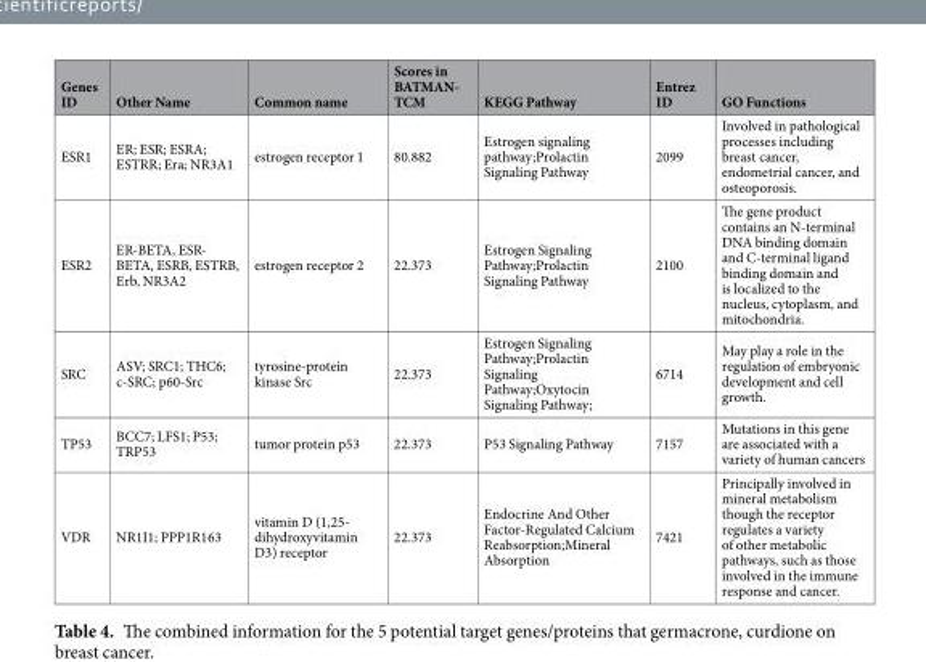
<table><thead><tr><td>Genes ID</td><td>Other Name</td><td>Common name</td><td>Scores in BATMAN- TCM</td><td>KEGG Pathway</td><td>Entrez ID</td><td>GO Functions</td></tr></thead><tbody><tr><td>ESR1</td><td>ER; ESR; ESRA; ESTRR; Era; NR3A1</td><td>estrogen receptor 1</td><td>80.882</td><td>Estrogen signaling pathway;Prolactin Signaling Pathway</td><td>2099</td><td>Involved in pathological processes including breast cancer, endometrial cancer, and osteoporosis.</td></tr><tr><td>ESR2</td><td>ER-BETA, ESR- BETA, ESRB, ESTRB, Erb, NR3A2</td><td>estrogen receptor 2</td><td>22.373</td><td>Estrogen Signaling Pathway;Prolactin Signaling Pathway</td><td>2100</td><td>The gene product contains an N-terminal DNA binding domain and C-terminal ligand binding domain and is localized to the nucleus, cytoplasm, and mitochondria.</td></tr><tr><td>SRC</td><td>ASV; SRC1; THC6; c-SRC; p60-Src</td><td>tyrosine-protein kinase Src</td><td>22.373</td><td>Estrogen Signaling Pathway;Prolactin Signaling Pathway;Oxytocin Signaling Pathway;</td><td>6714</td><td>May play a role in the regulation of embryonic development and cell growth.</td></tr><tr><td>TP53</td><td>BCC7; LFS1; P53; TRP53</td><td>tumor protein p53</td><td>22.373</td><td>P53 Signaling Pathway</td><td>7157</td><td>Mutations in this gene are associated with a variety of human cancers</td></tr><tr><td>VDR</td><td>NR1I1; PPP1R163</td><td>vitamin D (1,25- dihydroxyvitamin D3) receptor</td><td>22.373</td><td>Endocrine And Other Factor-Regulated Calcium Reabsorption;Mineral Absorption</td><td>7421</td><td>Principally involved in mineral metabolism though the receptor regulates a variety of other metabolic pathways, such as those involved in the immune response and cancer.</td></tr></tbody></table>